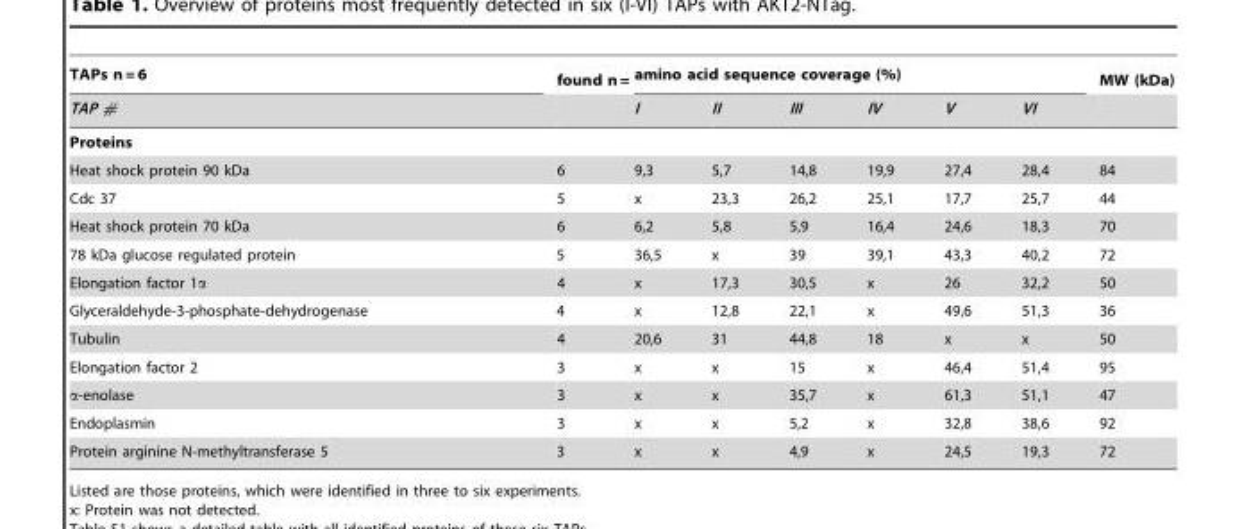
<table><thead><tr><td rowspan="2">TAPs n = 6 TAP #</td><td rowspan="2">found n =</td><td colspan="6">amino acid sequence coverage (%)</td><td rowspan="2">MW (kDa)</td></tr><tr><td>I</td><td>II</td><td>III</td><td>IV</td><td>V</td><td>VI</td></tr></thead><tbody><tr><td colspan="9">Proteins</td></tr><tr><td>Heat shock protein 90 kDa</td><td>6</td><td>9,3</td><td>5,7</td><td>14,8</td><td>19,9</td><td>27,4</td><td>28,4</td><td>84</td></tr><tr><td>Cdc 37</td><td>5</td><td>x</td><td>23,3</td><td>26,2</td><td>25,1</td><td>17,7</td><td>25,7</td><td>44</td></tr><tr><td>Heat shock protein 70 kDa</td><td>6</td><td>6,2</td><td>5,8</td><td>5,9</td><td>16,4</td><td>24,6</td><td>18,3</td><td>70</td></tr><tr><td>78 kDa glucose regulated protein</td><td>5</td><td>36,5</td><td>x</td><td>39</td><td>39,1</td><td>43,3</td><td>40,2</td><td>72</td></tr><tr><td>Elongation factor 1α</td><td>4</td><td>x</td><td>17,3</td><td>30,5</td><td>x</td><td>26</td><td>32,2</td><td>50</td></tr><tr><td>Glyceraldehyde-3-phosphate-dehydrogenase</td><td>4</td><td>x</td><td>12,8</td><td>22,1</td><td>x</td><td>49,6</td><td>51,3</td><td>36</td></tr><tr><td>Tubulin</td><td>4</td><td>20,6</td><td>31</td><td>44,8</td><td>18</td><td>x</td><td>x</td><td>50</td></tr><tr><td>Elongation factor 2</td><td>3</td><td>x</td><td>x</td><td>15</td><td>x</td><td>46,4</td><td>51,4</td><td>95</td></tr><tr><td>α-enolase</td><td>3</td><td>x</td><td>x</td><td>35,7</td><td>x</td><td>61,3</td><td>51,1</td><td>47</td></tr><tr><td>Endoplasmin</td><td>3</td><td>x</td><td>x</td><td>5,2</td><td>x</td><td>32,8</td><td>38,6</td><td>92</td></tr><tr><td>Protein arginine N-methyltransferase 5</td><td>3</td><td>x</td><td>x</td><td>4,9</td><td>x</td><td>24,5</td><td>19,3</td><td>72</td></tr></tbody></table>